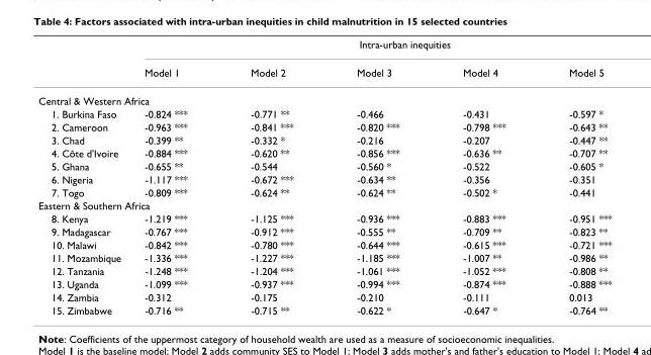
<table><thead><tr><td rowspan="2"></td><td colspan="5">Intra-urban inequities</td></tr><tr><td>Model 1</td><td>Model 2</td><td>Model 3</td><td>Model 4</td><td>Model 5</td></tr></thead><tbody><tr><td colspan="6">Central &amp; Western Africa</td></tr><tr><td>1. Burkina Faso</td><td>-0.824 ***</td><td>-0.771 **</td><td>-0.466</td><td>-0.431</td><td>-0.597 *</td></tr><tr><td>2. Cameroon</td><td>-0.963 ***</td><td>-0.841 ***</td><td>-0.820 ***</td><td>-0.798 ***</td><td>-0.643 **</td></tr><tr><td>3. Chad</td><td>-0.399 **</td><td>-0.332 *</td><td>-0.216</td><td>-0.207</td><td>-0.447 **</td></tr><tr><td>4. Côte d&#x27;Ivoire</td><td>-0.884 ***</td><td>-0.620 **</td><td>-0.856 ***</td><td>-0.636 **</td><td>-0.707 **</td></tr><tr><td>5. Ghana</td><td>-0.655 **</td><td>-0.544</td><td>-0.560 *</td><td>-0.522</td><td>-0.605 *</td></tr><tr><td>6. Nigeria</td><td>-1.117 ***</td><td>-0.672 ***</td><td>-0.634 **</td><td>-0.356</td><td>-0.351</td></tr><tr><td>7. Togo</td><td>-0.809 ***</td><td>-0.624 **</td><td>-0.624 **</td><td>-0.502 *</td><td>-0.441</td></tr><tr><td colspan="6">Eastern &amp; Southern Africa</td></tr><tr><td>8. Kenya</td><td>-1.219 ***</td><td>-1.125 ***</td><td>-0.936 ***</td><td>-0.883 ***</td><td>-0.951 ***</td></tr><tr><td>9. Madagascar</td><td>-0.767 ***</td><td>-0.912 ***</td><td>-0.555 **</td><td>-0.709 **</td><td>-0.823 **</td></tr><tr><td>10. Malawi</td><td>-0.842 ***</td><td>-0.780 ***</td><td>-0.644 ***</td><td>-0.615 ***</td><td>-0.721 ***</td></tr><tr><td>11. Mozambique</td><td>-1.336 ***</td><td>-1.227 ***</td><td>-1.185 ***</td><td>-1.007 **</td><td>-0.986 **</td></tr><tr><td>12. Tanzania</td><td>-1.248 ***</td><td>-1.204 ***</td><td>-1.061 ***</td><td>-1.052 ***</td><td>-0.808 **</td></tr><tr><td>13. Uganda</td><td>-1.099 ***</td><td>-0.937 ***</td><td>-0.994 ***</td><td>-0.874 ***</td><td>-0.888 ***</td></tr><tr><td>14. Zambia</td><td>-0.312</td><td>-0.175</td><td>-0.210</td><td>-0.111</td><td>0.013</td></tr><tr><td>15. Zimbabwe</td><td>-0.716 **</td><td>-0.715 **</td><td>-0.622 *</td><td>-0.647 *</td><td>-0.764 **</td></tr></tbody></table>